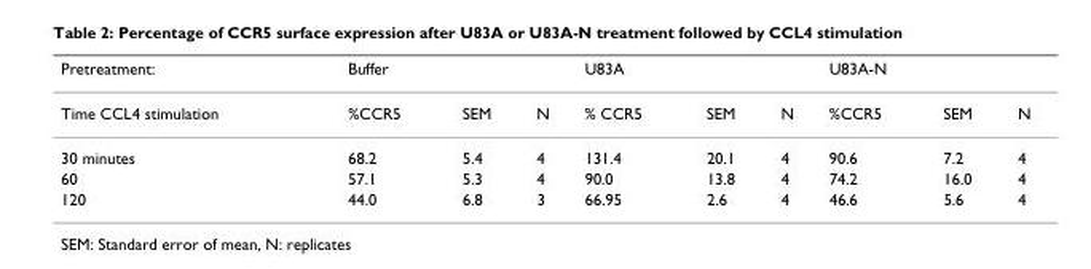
<table><thead><tr><td rowspan="2">Pretreatment: Time CCL4 stimulation</td><td colspan="3">Buffer</td><td colspan="3">U83A</td><td colspan="3">U83A-N</td></tr><tr><td>%CCR5</td><td>SEM</td><td>N</td><td>% CCR5</td><td>SEM</td><td>N</td><td>%CCR5</td><td>SEM</td><td>N</td></tr></thead><tbody><tr><td>30 minutes</td><td>68.2</td><td>5.4</td><td>4</td><td>131.4</td><td>20.1</td><td>4</td><td>90.6</td><td>7.2</td><td>4</td></tr><tr><td>60</td><td>57.1</td><td>5.3</td><td>4</td><td>90.0</td><td>13.8</td><td>4</td><td>74.2</td><td>16.0</td><td>4</td></tr><tr><td>120</td><td>44.0</td><td>6.8</td><td>3</td><td>66.95</td><td>2.6</td><td>4</td><td>46.6</td><td>5.6</td><td>4</td></tr></tbody></table>